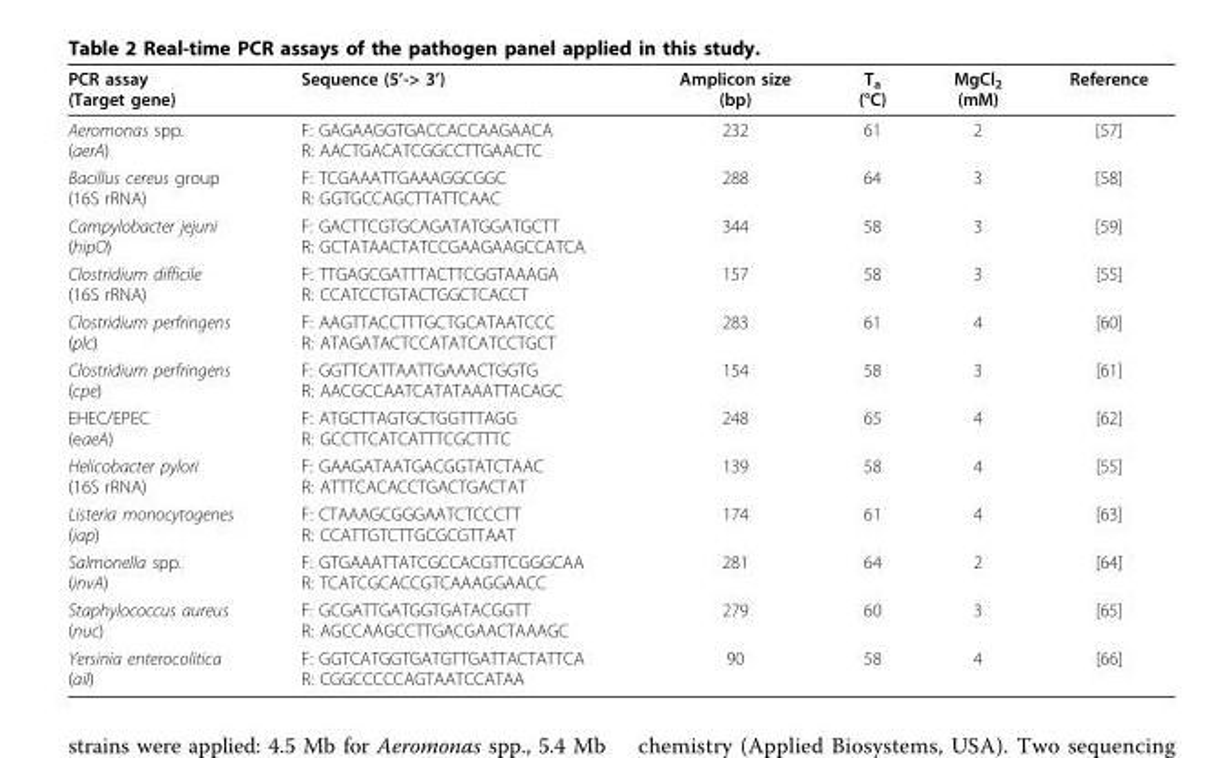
<table><thead><tr><td>PCR assay (Target gene)</td><td>Sequence (5’-&gt; 3’)</td><td>Amplicon size (bp)</td><td>T<sub>a</sub> (°C)</td><td>MgCl<sub>2</sub> (mM)</td><td>Reference</td></tr></thead><tbody><tr><td>Aeromonas spp. (aerA)</td><td>F: GAGAAGGTGACCACCAAGAACA R: AACTGACATCGGCCTTGAACTC</td><td>232</td><td>61</td><td>2</td><td>[57]</td></tr><tr><td>Bacillus cereus group (16S rRNA)</td><td>F: TCGAAATTGAAAGGCGGC R: GGTGCCAGCTTATTCAAC</td><td>288</td><td>64</td><td>3</td><td>[58]</td></tr><tr><td>Campylobacter jejuni (hipO)</td><td>F: GACTTCGTGCAGATATGGATGCTT R: GCTATAACTATCCGAAGAAGCCATCA</td><td>344</td><td>58</td><td>3</td><td>[59]</td></tr><tr><td>Clostridium difficile (16S rRNA)</td><td>F: TTGAGCGATTTACTTCGGTAAAGA R: CCATCCTGTACTGGCTCACCT</td><td>157</td><td>58</td><td>3</td><td>[55]</td></tr><tr><td>Clostridium perfringens (plc)</td><td>F: AAGTTACCTTTGCTGCATAATCCC R: ATAGATACTCCATATCATCCTGCT</td><td>283</td><td>61</td><td>4</td><td>[60]</td></tr><tr><td>Clostridium perfringens (cpe)</td><td>F: GGTTCATTAATTGAAACTGGTG R: AACGCCAATCATATAAATTACAGC</td><td>154</td><td>58</td><td>3</td><td>[61]</td></tr><tr><td>EHEC/EPEC (eaeA)</td><td>F: ATGCTTAGTGCTGGTTTAGG R: GCCTTCATCATTTCGCTTTC</td><td>248</td><td>65</td><td>4</td><td>[62]</td></tr><tr><td>Helicobacter pylori (16S rRNA)</td><td>F: GAAGATAATGACGGTATCTAAC R: ATTTCACACCTGACTGACTAT</td><td>139</td><td>58</td><td>4</td><td>[55]</td></tr><tr><td>Listeria monocytogenes (iap)</td><td>F: CTAAAGCGGGAATCTCCCTT R: CCATTGTCTTGCGCGTTAAT</td><td>174</td><td>61</td><td>4</td><td>[63]</td></tr><tr><td>Salmonella spp. (invA)</td><td>F: GTGAAATTATCGCCACGTTCGGGCAA R: TCATCGCACCGTCAAAGGAACC</td><td>281</td><td>64</td><td>2</td><td>[64]</td></tr><tr><td>Staphylococcus aureus (nuc)</td><td>F: GCGATTGATGGTGATACGGTT R: AGCCAAGCCTTGACGAACTAAAGC</td><td>279</td><td>60</td><td>3</td><td>[65]</td></tr><tr><td>Yersinia enterocolitica (ail)</td><td>F: GGTCATGGTGATGTTGATTACTATTCA R: CGGCCCCCAGTAATCCATAA</td><td>90</td><td>58</td><td>4</td><td>[66]</td></tr></tbody></table>